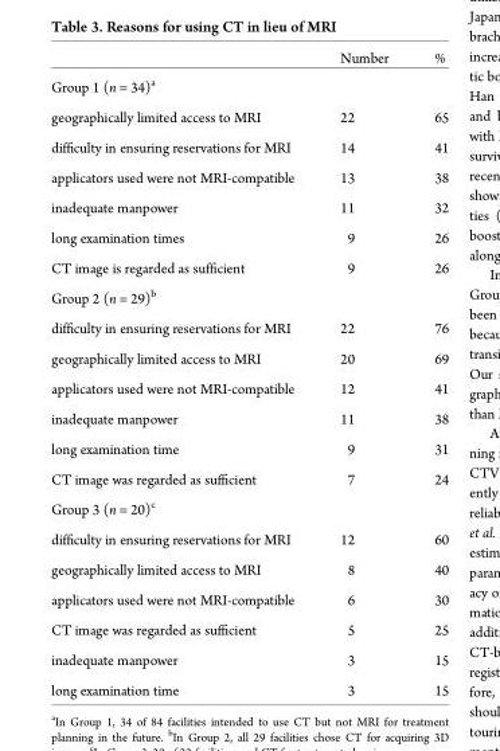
<table><thead><tr><td></td><td>Number</td><td>%</td></tr></thead><tbody><tr><td colspan="3">Group 1 (n = 34)<sup>a</sup></td></tr><tr><td>geographically limited access to MRI</td><td>22</td><td>65</td></tr><tr><td>difficulty in ensuring reservations for MRI</td><td>14</td><td>41</td></tr><tr><td>applicators used were not MRI-compatible</td><td>13</td><td>38</td></tr><tr><td>inadequate manpower</td><td>11</td><td>32</td></tr><tr><td>long examination times</td><td>9</td><td>26</td></tr><tr><td>CT image is regarded as sufficient</td><td>9</td><td>26</td></tr><tr><td colspan="3">Group 2 (n = 29)<sup>b</sup></td></tr><tr><td>difficulty in ensuring reservations for MRI</td><td>22</td><td>76</td></tr><tr><td>geographically limited access to MRI</td><td>20</td><td>69</td></tr><tr><td>applicators used were not MRI-compatible</td><td>12</td><td>41</td></tr><tr><td>inadequate manpower</td><td>11</td><td>38</td></tr><tr><td>long examination time</td><td>9</td><td>31</td></tr><tr><td>CT image was regarded as sufficient</td><td>7</td><td>24</td></tr><tr><td colspan="3">Group 3 (n = 20)<sup>c</sup></td></tr><tr><td>difficulty in ensuring reservations for MRI</td><td>12</td><td>60</td></tr><tr><td>geographically limited access to MRI</td><td>8</td><td>40</td></tr><tr><td>applicators used were not MRI-compatible</td><td>6</td><td>30</td></tr><tr><td>CT image was regarded as sufficient</td><td>5</td><td>25</td></tr><tr><td>inadequate manpower</td><td>3</td><td>15</td></tr><tr><td>long examination time</td><td>3</td><td>15</td></tr></tbody></table>